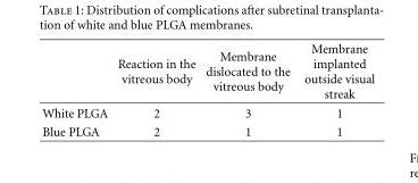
<table><thead><tr><td></td><td>Reaction in the vitreous body</td><td>Membrane dislocated to the vitreous body</td><td>Membrane implanted outside visual streak</td></tr></thead><tbody><tr><td>White PLGA</td><td>2</td><td>3</td><td>1</td></tr><tr><td>Blue PLGA</td><td>2</td><td>1</td><td>1</td></tr></tbody></table>